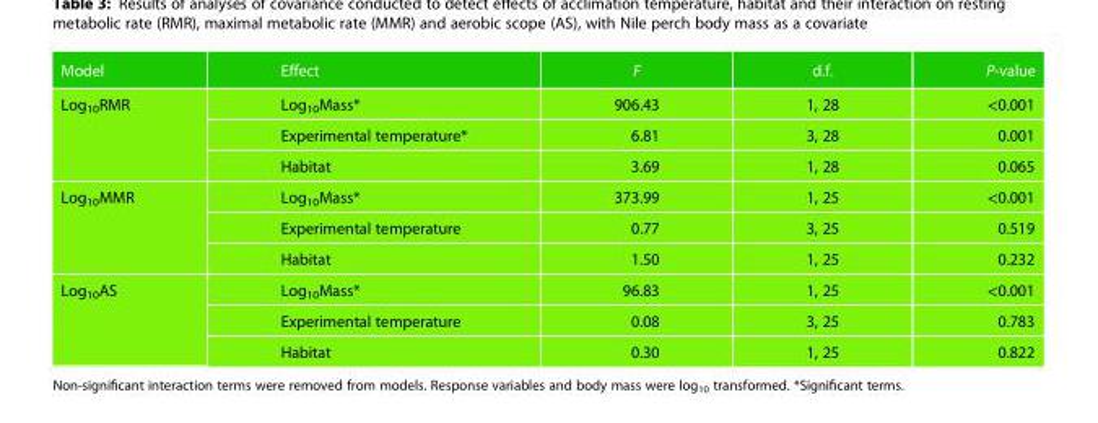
<table><thead><tr><td>Model</td><td>Effect</td><td>F</td><td>d.f.</td><td>P-value</td></tr></thead><tbody><tr><td rowspan="3">Log<sub>10</sub>RMR</td><td>Log<sub>10</sub>Mass*</td><td>906.43</td><td>1, 28</td><td>&lt;0.001</td></tr><tr><td>Experimental temperature*</td><td>6.81</td><td>3, 28</td><td>0.001</td></tr><tr><td>Habitat</td><td>3.69</td><td>1, 28</td><td>0.065</td></tr><tr><td rowspan="3">Log<sub>10</sub>MMR</td><td>Log<sub>10</sub>Mass*</td><td>373.99</td><td>1, 25</td><td>&lt;0.001</td></tr><tr><td>Experimental temperature</td><td>0.77</td><td>3, 25</td><td>0.519</td></tr><tr><td>Habitat</td><td>1.50</td><td>1, 25</td><td>0.232</td></tr><tr><td rowspan="3">Log<sub>10</sub>AS</td><td>Log<sub>10</sub>Mass*</td><td>96.83</td><td>1, 25</td><td>&lt;0.001</td></tr><tr><td>Experimental temperature</td><td>0.08</td><td>3, 25</td><td>0.783</td></tr><tr><td>Habitat</td><td>0.30</td><td>1, 25</td><td>0.822</td></tr></tbody></table>